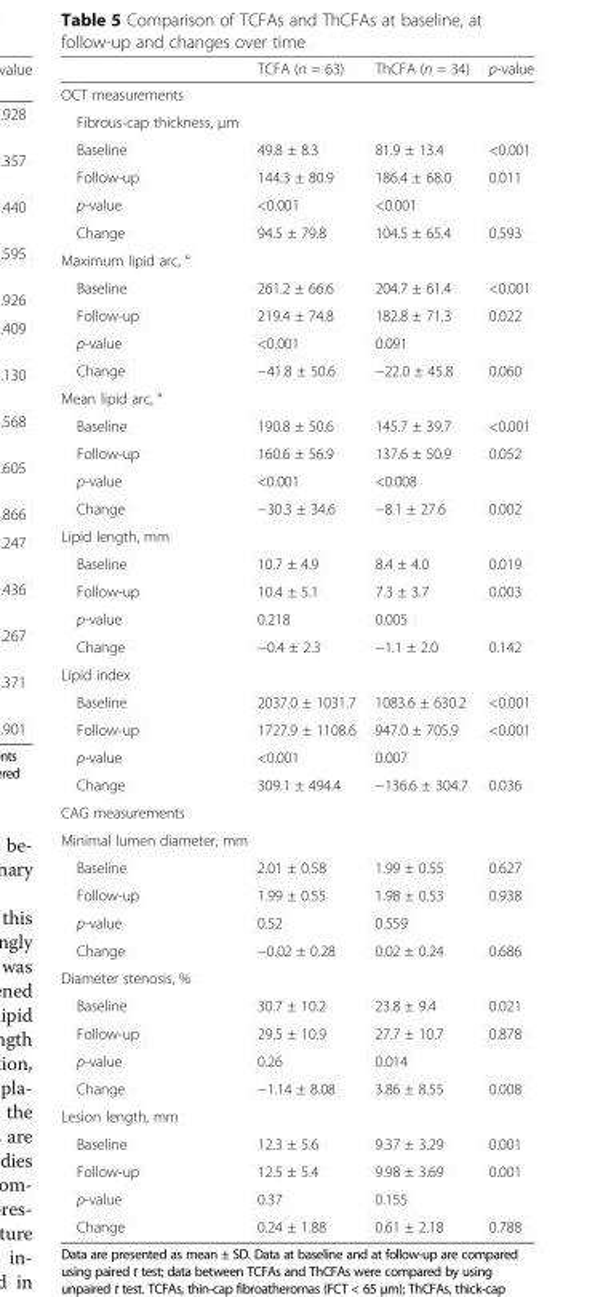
<table><thead><tr><td></td><td>TCFA (n = 63)</td><td>ThCFA (n = 34)</td><td>p-value</td></tr></thead><tbody><tr><td colspan="4">OCT measurements</td></tr><tr><td colspan="4">Fibrous-cap thickness, μm</td></tr><tr><td>Baseline</td><td>49.8 ± 8.3</td><td>81.9 ± 13.4</td><td>&lt;0.001</td></tr><tr><td>Follow-up</td><td>144.3 ± 80.9</td><td>186.4 ± 68.0</td><td>0.011</td></tr><tr><td>p-value</td><td>&lt;0.001</td><td>&lt;0.001</td><td></td></tr><tr><td>Change</td><td>94.5 ± 79.8</td><td>104.5 ± 65.4</td><td>0.593</td></tr><tr><td colspan="4">Maximum lipid arc, °</td></tr><tr><td>Baseline</td><td>261.2 ± 66.6</td><td>204.7 ± 61.4</td><td>&lt;0.001</td></tr><tr><td>Follow-up</td><td>219.4 ± 74.8</td><td>182.8 ± 71.3</td><td>0.022</td></tr><tr><td>p-value</td><td>&lt;0.001</td><td>0.091</td><td></td></tr><tr><td>Change</td><td>−41.8 ± 50.6</td><td>−22.0 ± 45.8</td><td>0.060</td></tr><tr><td colspan="4">Mean lipid arc, °</td></tr><tr><td>Baseline</td><td>190.8 ± 50.6</td><td>145.7 ± 39.7</td><td>&lt;0.001</td></tr><tr><td>Follow-up</td><td>160.6 ± 56.9</td><td>137.6 ± 50.9</td><td>0.052</td></tr><tr><td>p-value</td><td>&lt;0.001</td><td>&lt;0.008</td><td></td></tr><tr><td>Change</td><td>−30.3 ± 34.6</td><td>−8.1 ± 27.6</td><td>0.002</td></tr><tr><td colspan="4">Lipid length, mm</td></tr><tr><td>Baseline</td><td>10.7 ± 4.9</td><td>8.4 ± 4.0</td><td>0.019</td></tr><tr><td>Follow-up</td><td>10.4 ± 5.1</td><td>7.3 ± 3.7</td><td>0.003</td></tr><tr><td>p-value</td><td>0.218</td><td>0.005</td><td></td></tr><tr><td>Change</td><td>−0.4 ± 2.3</td><td>−1.1 ± 2.0</td><td>0.142</td></tr><tr><td colspan="4">Lipid index</td></tr><tr><td>Baseline</td><td>2037.0 ± 1031.7</td><td>1083.6 ± 630.2</td><td>&lt;0.001</td></tr><tr><td>Follow-up</td><td>1727.9 ± 1108.6</td><td>947.0 ± 705.9</td><td>&lt;0.001</td></tr><tr><td>p-value</td><td>&lt;0.001</td><td>0.007</td><td></td></tr><tr><td>Change</td><td>309.1 ± 494.4</td><td>−136.6 ± 304.7</td><td>0.036</td></tr><tr><td colspan="4">CAG measurements</td></tr><tr><td colspan="4">Minimal lumen diameter, mm</td></tr><tr><td>Baseline</td><td>2.01 ± 0.58</td><td>1.99 ± 0.55</td><td>0.627</td></tr><tr><td>Follow-up</td><td>1.99 ± 0.55</td><td>1.98 ± 0.53</td><td>0.938</td></tr><tr><td>p-value</td><td>0.52</td><td>0.559</td><td></td></tr><tr><td>Change</td><td>−0.02 ± 0.28</td><td>0.02 ± 0.24</td><td>0.686</td></tr><tr><td colspan="4">Diameter stenosis, %</td></tr><tr><td>Baseline</td><td>30.7 ± 10.2</td><td>23.8 ± 9.4</td><td>0.021</td></tr><tr><td>Follow-up</td><td>29.5 ± 10.9</td><td>27.7 ± 10.7</td><td>0.878</td></tr><tr><td>p-value</td><td>0.26</td><td>0.014</td><td></td></tr><tr><td>Change</td><td>−1.14 ± 8.08</td><td>3.86 ± 8.55</td><td>0.008</td></tr><tr><td colspan="4">Lesion length, mm</td></tr><tr><td>Baseline</td><td>12.3 ± 5.6</td><td>9.37 ± 3.29</td><td>0.001</td></tr><tr><td>Follow-up</td><td>12.5 ± 5.4</td><td>9.98 ± 3.69</td><td>0.001</td></tr><tr><td>p-value</td><td>0.37</td><td>0.155</td><td></td></tr><tr><td>Change</td><td>0.24 ± 1.88</td><td>0.61 ± 2.18</td><td>0.788</td></tr></tbody></table>